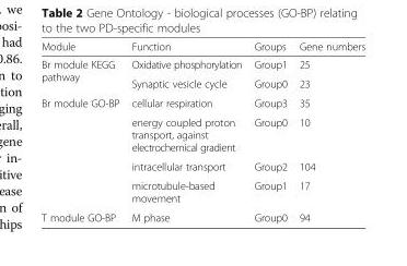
<table><thead><tr><td>Module</td><td>Function</td><td>Groups</td><td>Gene numbers</td></tr></thead><tbody><tr><td rowspan="2">Br module KEGG pathway</td><td>Oxidative phosphorylation</td><td>Group1</td><td>25</td></tr><tr><td>Synaptic vesicle cycle</td><td>Group0</td><td>23</td></tr><tr><td rowspan="4">Br module GO-BP</td><td>cellular respiration</td><td>Group3</td><td>35</td></tr><tr><td>energy coupled proton transport, against electrochemical gradient</td><td>Group0</td><td>10</td></tr><tr><td>intracellular transport</td><td>Group2</td><td>104</td></tr><tr><td>microtubule-based movement</td><td>Group1</td><td>17</td></tr><tr><td>T module GO-BP</td><td>M phase</td><td>Group0</td><td>94</td></tr></tbody></table>